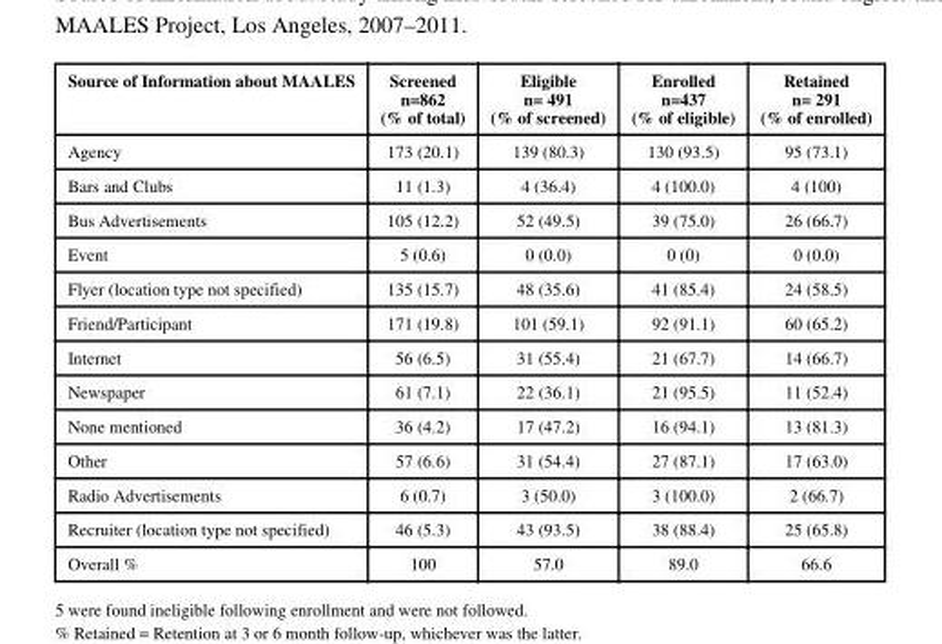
<table><thead><tr><td>Source of Information about MAALES</td><td>Screened n=862 (% of total)</td><td>Eligible n= 491 (% of screened)</td><td>Enrolled n=437 (% of eligible)</td><td>Retained n= 291 (% of enrolled)</td></tr></thead><tbody><tr><td>Agency</td><td>173 (20.1)</td><td>139 (80.3)</td><td>130 (93.5)</td><td>95 (73.1)</td></tr><tr><td>Bars and Clubs</td><td>11 (1.3)</td><td>4 (36.4)</td><td>4 (100.0)</td><td>4 (100)</td></tr><tr><td>Bus Advertisements</td><td>105 (12.2)</td><td>52 (49.5)</td><td>39 (75.0)</td><td>26 (66.7)</td></tr><tr><td>Event</td><td>5 (0.6)</td><td>0 (0.0)</td><td>0 (0)</td><td>0 (0.0)</td></tr><tr><td>Flyer (location type not specified)</td><td>135 (15.7)</td><td>48 (35.6)</td><td>41 (85.4)</td><td>24 (58.5)</td></tr><tr><td>Friend/Participant</td><td>171 (19.8)</td><td>101 (59.1)</td><td>92 (91.1)</td><td>60 (65.2)</td></tr><tr><td>Internet</td><td>56 (6.5)</td><td>31 (55.4)</td><td>21 (67.7)</td><td>14 (66.7)</td></tr><tr><td>Newspaper</td><td>61 (7.1)</td><td>22 (36.1)</td><td>21 (95.5)</td><td>11 (52.4)</td></tr><tr><td>None mentioned</td><td>36 (4.2)</td><td>17 (47.2)</td><td>16 (94.1)</td><td>13 (81.3)</td></tr><tr><td>Other</td><td>57 (6.6)</td><td>31 (54.4)</td><td>27 (87.1)</td><td>17 (63.0)</td></tr><tr><td>Radio Advertisements</td><td>6 (0.7)</td><td>3 (50.0)</td><td>3 (100.0)</td><td>2 (66.7)</td></tr><tr><td>Recruiter (location type not specified)</td><td>46 (5.3)</td><td>43 (93.5)</td><td>38 (88.4)</td><td>25 (65.8)</td></tr><tr><td>Overall %</td><td>100</td><td>57.0</td><td>89.0</td><td>66.6</td></tr></tbody></table>